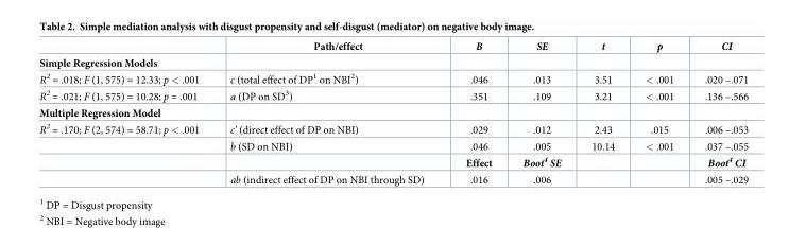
<table><thead><tr><td></td><td>Path/effect</td><td>B</td><td>SE</td><td>t</td><td>p</td><td>CI</td></tr></thead><tbody><tr><td colspan="7">Simple Regression Models</td></tr><tr><td>R<sup>2</sup> = .018; F (1, 575) = 12.33; p &lt; .001</td><td>c (total effect of DP<sup>1</sup> on NBI<sup>2</sup>)</td><td>.046</td><td>.013</td><td>3.51</td><td>&lt; .001</td><td>.020 –.071</td></tr><tr><td>R<sup>2</sup> = .021; F (1, 575) = 10.28; p = .001</td><td>a (DP on SD<sup>3</sup>)</td><td>.351</td><td>.109</td><td>3.21</td><td>&lt; .001</td><td>.136 –.566</td></tr><tr><td colspan="7">Multiple Regression Model</td></tr><tr><td rowspan="4">R<sup>2</sup> = .170; F (2, 574) = 58.71; p &lt; .001</td><td>c’ (direct effect of DP on NBI)</td><td>.029</td><td>.012</td><td>2.43</td><td>.015</td><td>.006 –.053</td></tr><tr><td>b (SD on NBI)</td><td>.046</td><td>.005</td><td>10.14</td><td>&lt; .001</td><td>.037 –.055</td></tr><tr><td></td><td>Effect</td><td>Boot<sup>4</sup> SE</td><td></td><td></td><td>Boot<sup>4</sup> CI</td></tr><tr><td>ab (indirect effect of DP on NBI through SD)</td><td>.016</td><td>.006</td><td></td><td></td><td>.005 –.029</td></tr></tbody></table>